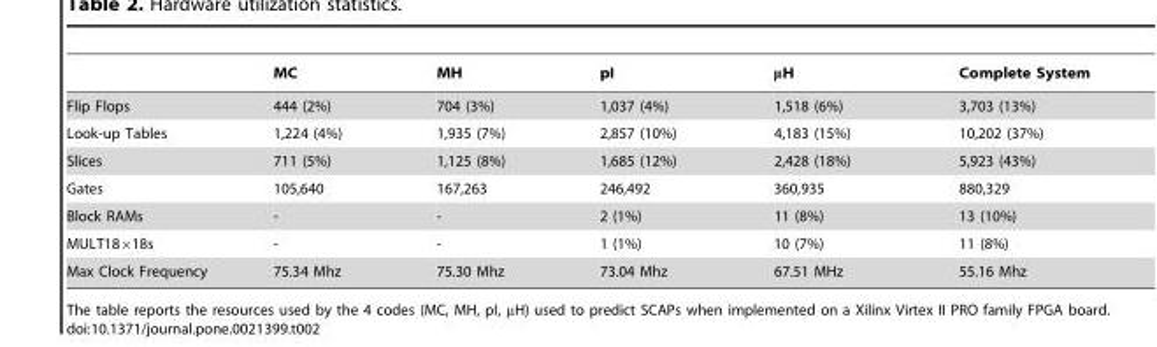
<table><thead><tr><td></td><td>MC</td><td>MH</td><td>pI</td><td>μH</td><td>Complete System</td></tr></thead><tbody><tr><td>Flip Flops</td><td>444 (2%)</td><td>704 (3%)</td><td>1,037 (4%)</td><td>1,518 (6%)</td><td>3,703 (13%)</td></tr><tr><td>Look-up Tables</td><td>1,224 (4%)</td><td>1,935 (7%)</td><td>2,857 (10%)</td><td>4,183 (15%)</td><td>10,202 (37%)</td></tr><tr><td>Slices</td><td>711 (5%)</td><td>1,125 (8%)</td><td>1,685 (12%)</td><td>2,428 (18%)</td><td>5,923 (43%)</td></tr><tr><td>Gates</td><td>105,640</td><td>167,263</td><td>246,492</td><td>360,935</td><td>880,329</td></tr><tr><td>Block RAMs</td><td>-</td><td>-</td><td>2 (1%)</td><td>11 (8%)</td><td>13 (10%)</td></tr><tr><td>MULT18×18s</td><td>-</td><td>-</td><td>1 (1%)</td><td>10 (7%)</td><td>11 (8%)</td></tr><tr><td>Max Clock Frequency</td><td>75.34 Mhz</td><td>75.30 Mhz</td><td>73.04 Mhz</td><td>67.51 MHz</td><td>55.16 Mhz</td></tr></tbody></table>